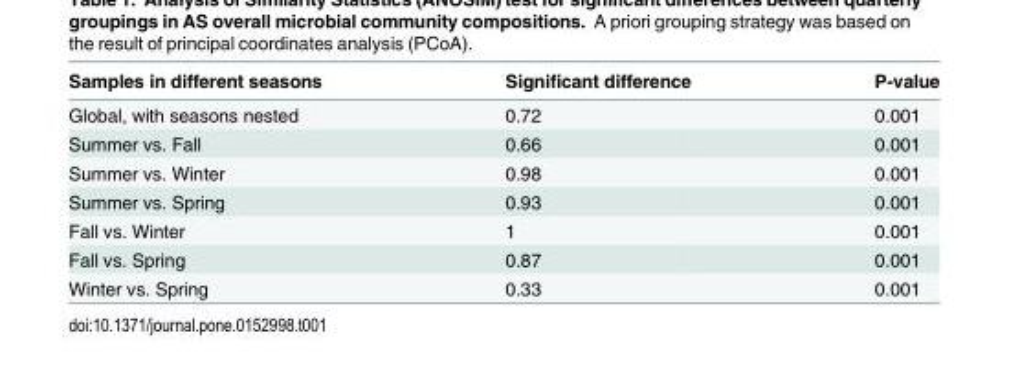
<table><thead><tr><td>Samples in different seasons</td><td>Significant difference</td><td>P-value</td></tr></thead><tbody><tr><td>Global, with seasons nested</td><td>0.72</td><td>0.001</td></tr><tr><td>Summer vs. Fall</td><td>0.66</td><td>0.001</td></tr><tr><td>Summer vs. Winter</td><td>0.98</td><td>0.001</td></tr><tr><td>Summer vs. Spring</td><td>0.93</td><td>0.001</td></tr><tr><td>Fall vs. Winter</td><td>1</td><td>0.001</td></tr><tr><td>Fall vs. Spring</td><td>0.87</td><td>0.001</td></tr><tr><td>Winter vs. Spring</td><td>0.33</td><td>0.001</td></tr></tbody></table>